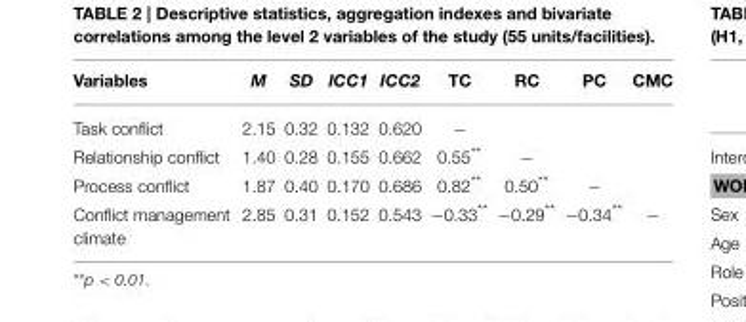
<table><thead><tr><td>Variables</td><td>M</td><td>SD</td><td>ICC1</td><td>ICC2</td><td>TC</td><td>RC</td><td>PC</td><td>CMC</td></tr></thead><tbody><tr><td>Task conflict</td><td>2.15</td><td>0.32</td><td>0.132</td><td>0.620</td><td>−</td><td></td><td></td><td></td></tr><tr><td>Relationship conflict</td><td>1.40</td><td>0.28</td><td>0.155</td><td>0.662</td><td>0.55**</td><td>−</td><td></td><td></td></tr><tr><td>Process conflict</td><td>1.87</td><td>0.40</td><td>0.170</td><td>0.686</td><td>0.82**</td><td>0.50**</td><td>−</td><td></td></tr><tr><td>Conflict management climate</td><td>2.85</td><td>0.31</td><td>0.152</td><td>0.543</td><td>−0.33**</td><td>−0.29**</td><td>−0.34**</td><td>−</td></tr></tbody></table>